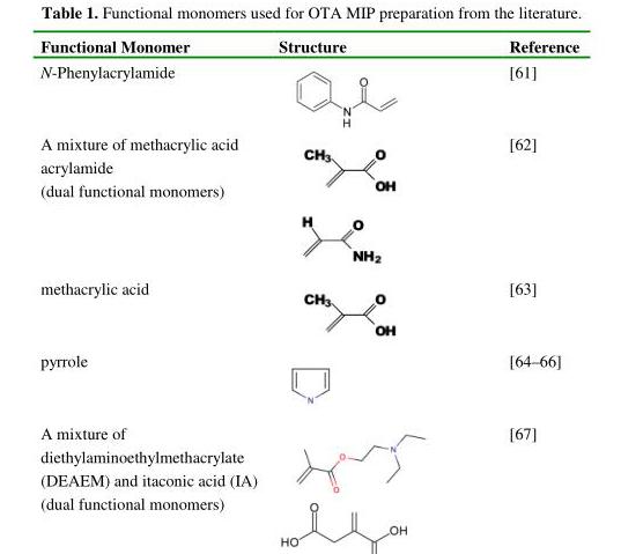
<table><thead><tr><td>Functional Monomer</td><td>Structure</td><td>Reference</td></tr></thead><tbody><tr><td>N-Phenylacrylamide</td><td></td><td>[61]</td></tr><tr><td>A mixture of methacrylic acid acrylamide (dual functional monomers)</td><td></td><td>[62]</td></tr><tr><td>methacrylic acid</td><td></td><td>[63]</td></tr><tr><td>pyrrole</td><td></td><td>[64–66]</td></tr><tr><td>A mixture of diethylaminoethylmethacrylate (DEAEM) and itaconic acid (IA) (dual functional monomers)</td><td></td><td>[67]</td></tr></tbody></table>